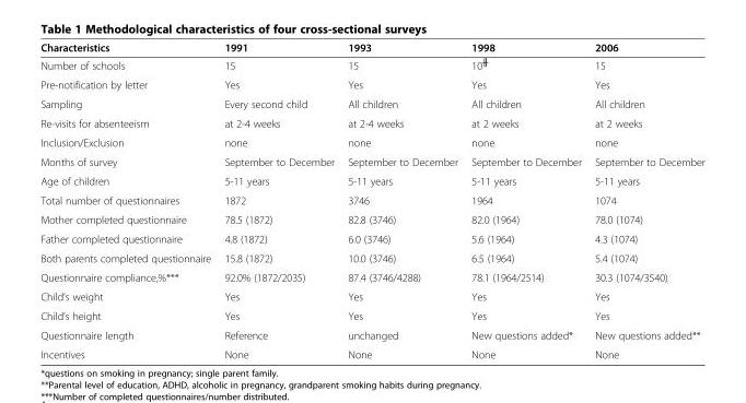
<table><thead><tr><td>Characteristics</td><td>1991</td><td>1993</td><td>1998</td><td>2006</td></tr></thead><tbody><tr><td>Number of schools</td><td>15</td><td>15</td><td>10<sup>╫</sup></td><td>15</td></tr><tr><td>Pre-notification by letter</td><td>Yes</td><td>Yes</td><td>Yes</td><td>Yes</td></tr><tr><td>Sampling</td><td>Every second child</td><td>All children</td><td>All children</td><td>All children</td></tr><tr><td>Re-visits for absenteeism</td><td>at 2-4 weeks</td><td>at 2-4 weeks</td><td>at 2 weeks</td><td>at 2 weeks</td></tr><tr><td>Inclusion/Exclusion</td><td>none</td><td>none</td><td>none</td><td>none</td></tr><tr><td>Months of survey</td><td>September to December</td><td>September to December</td><td>September to December</td><td>September to December</td></tr><tr><td>Age of children</td><td>5-11 years</td><td>5-11 years</td><td>5-11 years</td><td>5-11 years</td></tr><tr><td>Total number of questionnaires</td><td>1872</td><td>3746</td><td>1964</td><td>1074</td></tr><tr><td>Mother completed questionnaire</td><td>78.5 (1872)</td><td>82.8 (3746)</td><td>82.0 (1964)</td><td>78.0 (1074)</td></tr><tr><td>Father completed questionnaire</td><td>4.8 (1872)</td><td>6.0 (3746)</td><td>5.6 (1964)</td><td>4.3 (1074)</td></tr><tr><td>Both parents completed questionnaire</td><td>15.8 (1872)</td><td>10.0 (3746)</td><td>6.5 (1964)</td><td>5.4 (1074)</td></tr><tr><td>Questionnaire compliance,%***</td><td>92.0% (1872/2035)</td><td>87.4 (3746/4288)</td><td>78.1 (1964/2514)</td><td>30.3 (1074/3540)</td></tr><tr><td>Child’s weight</td><td>Yes</td><td>Yes</td><td>Yes</td><td>Yes</td></tr><tr><td>Child’s height</td><td>Yes</td><td>Yes</td><td>Yes</td><td>Yes</td></tr><tr><td>Questionnaire length</td><td>Reference</td><td>unchanged</td><td>New questions added*</td><td>New questions added**</td></tr><tr><td>Incentives</td><td>None</td><td>None</td><td>None</td><td>None</td></tr></tbody></table>